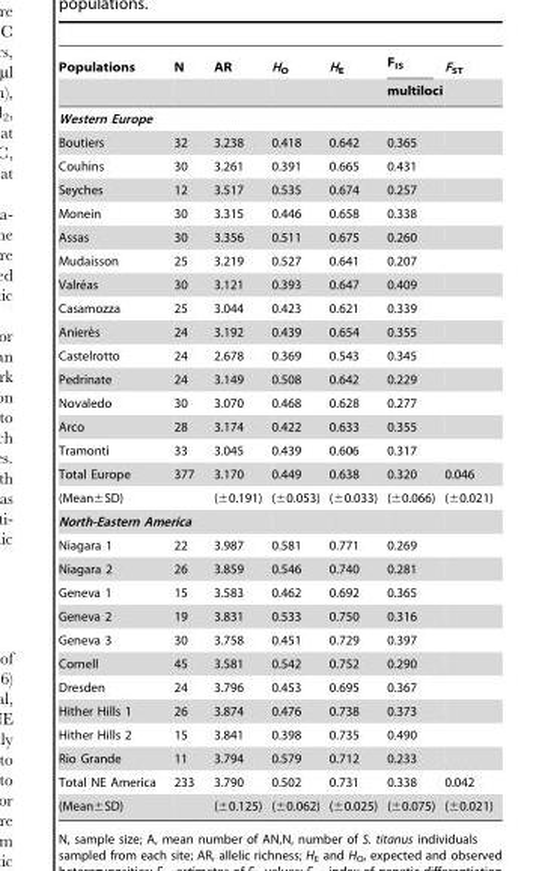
<table><thead><tr><td rowspan="2">Populations</td><td rowspan="2">N</td><td rowspan="2">AR</td><td rowspan="2">H<sub>O</sub></td><td rowspan="2">H<sub>E</sub></td><td rowspan="2">F<sub>IS</sub> multiloci</td><td rowspan="2">F<sub>ST</sub></td></tr><tr></tr></thead><tbody><tr><td colspan="7">Western Europe</td></tr><tr><td>Boutiers</td><td>32</td><td>3.238</td><td>0.418</td><td>0.642</td><td>0.365</td><td></td></tr><tr><td>Couhins</td><td>30</td><td>3.261</td><td>0.391</td><td>0.665</td><td>0.431</td><td></td></tr><tr><td>Seyches</td><td>12</td><td>3.517</td><td>0.535</td><td>0.674</td><td>0.257</td><td></td></tr><tr><td>Monein</td><td>30</td><td>3.315</td><td>0.446</td><td>0.658</td><td>0.338</td><td></td></tr><tr><td>Assas</td><td>30</td><td>3.356</td><td>0.511</td><td>0.675</td><td>0.260</td><td></td></tr><tr><td>Mudaisson</td><td>25</td><td>3.219</td><td>0.527</td><td>0.641</td><td>0.207</td><td></td></tr><tr><td>Valre´as</td><td>30</td><td>3.121</td><td>0.393</td><td>0.647</td><td>0.409</td><td></td></tr><tr><td>Casamozza</td><td>25</td><td>3.044</td><td>0.423</td><td>0.621</td><td>0.339</td><td></td></tr><tr><td>Aniere`s</td><td>24</td><td>3.192</td><td>0.439</td><td>0.654</td><td>0.355</td><td></td></tr><tr><td>Castelrotto</td><td>24</td><td>2.678</td><td>0.369</td><td>0.543</td><td>0.345</td><td></td></tr><tr><td>Pedrinate</td><td>24</td><td>3.149</td><td>0.508</td><td>0.642</td><td>0.229</td><td></td></tr><tr><td>Novaledo</td><td>30</td><td>3.070</td><td>0.468</td><td>0.628</td><td>0.277</td><td></td></tr><tr><td>Arco</td><td>28</td><td>3.174</td><td>0.422</td><td>0.633</td><td>0.355</td><td></td></tr><tr><td>Tramonti</td><td>33</td><td>3.045</td><td>0.439</td><td>0.606</td><td>0.317</td><td></td></tr><tr><td>Total Europe</td><td>377</td><td>3.170</td><td>0.449</td><td>0.638</td><td>0.320</td><td>0.046</td></tr><tr><td>(Mean±SD)</td><td></td><td>(±0.191)</td><td>(±0.053)</td><td>(±0.033)</td><td>(±0.066)</td><td>(±0.021)</td></tr><tr><td colspan="7">North-Eastern America</td></tr><tr><td>Niagara 1</td><td>22</td><td>3.987</td><td>0.581</td><td>0.771</td><td>0.269</td><td></td></tr><tr><td>Niagara 2</td><td>26</td><td>3.859</td><td>0.546</td><td>0.740</td><td>0.281</td><td></td></tr><tr><td>Geneva 1</td><td>15</td><td>3.583</td><td>0.462</td><td>0.692</td><td>0.365</td><td></td></tr><tr><td>Geneva 2</td><td>19</td><td>3.831</td><td>0.533</td><td>0.750</td><td>0.316</td><td></td></tr><tr><td>Geneva 3</td><td>30</td><td>3.758</td><td>0.451</td><td>0.729</td><td>0.397</td><td></td></tr><tr><td>Cornell</td><td>45</td><td>3.581</td><td>0.542</td><td>0.752</td><td>0.290</td><td></td></tr><tr><td>Dresden</td><td>24</td><td>3.796</td><td>0.453</td><td>0.695</td><td>0.367</td><td></td></tr><tr><td>Hither Hills 1</td><td>26</td><td>3.874</td><td>0.476</td><td>0.738</td><td>0.373</td><td></td></tr><tr><td>Hither Hills 2</td><td>15</td><td>3.841</td><td>0.398</td><td>0.735</td><td>0.490</td><td></td></tr><tr><td>Rio Grande</td><td>11</td><td>3.794</td><td>0.579</td><td>0.712</td><td>0.233</td><td></td></tr><tr><td>Total NE America</td><td>233</td><td>3.790</td><td>0.502</td><td>0.731</td><td>0.338</td><td>0.042</td></tr><tr><td>(Mean±SD)</td><td></td><td>(±0.125)</td><td>(±0.062)</td><td>(±0.025)</td><td>(±0.075)</td><td>(±0.021)</td></tr></tbody></table>